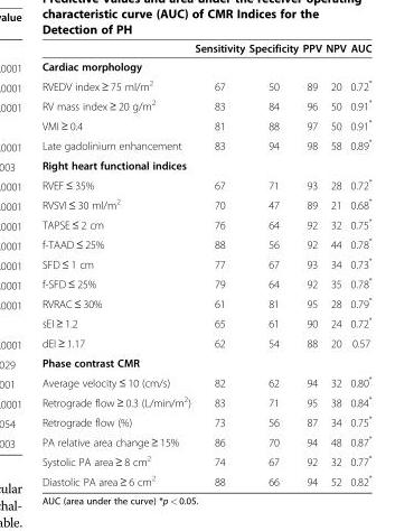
<table><thead><tr><td></td><td>Sensitivity</td><td>Specificity</td><td>PPV</td><td>NPV</td><td>AUC</td></tr></thead><tbody><tr><td colspan="6">Cardiac morphology</td></tr><tr><td>RVEDV index ≥ 75 ml/m<sup>2</sup></td><td>67</td><td>50</td><td>89</td><td>20</td><td>0.72*</td></tr><tr><td>RV mass index ≥ 20 g/m<sup>2</sup></td><td>83</td><td>84</td><td>96</td><td>50</td><td>0.91*</td></tr><tr><td>VMI ≥ 0.4</td><td>81</td><td>88</td><td>97</td><td>50</td><td>0.91*</td></tr><tr><td>Late gadolinium enhancement</td><td>83</td><td>94</td><td>98</td><td>58</td><td>0.89*</td></tr><tr><td colspan="6">Right heart functional indices</td></tr><tr><td>RVEF ≤ 35%</td><td>67</td><td>71</td><td>93</td><td>28</td><td>0.72*</td></tr><tr><td>RVSVI ≤ 30 ml/m<sup>2</sup></td><td>70</td><td>47</td><td>89</td><td>21</td><td>0.68*</td></tr><tr><td>TAPSE ≤ 2 cm</td><td>76</td><td>64</td><td>92</td><td>32</td><td>0.75*</td></tr><tr><td>f-TAAD ≤ 25%</td><td>88</td><td>56</td><td>92</td><td>44</td><td>0.78*</td></tr><tr><td>SFD ≤ 1 cm</td><td>77</td><td>67</td><td>93</td><td>34</td><td>0.73*</td></tr><tr><td>f-SFD ≤ 25%</td><td>79</td><td>64</td><td>92</td><td>35</td><td>0.78*</td></tr><tr><td>RVRAC ≤ 30%</td><td>61</td><td>81</td><td>95</td><td>28</td><td>0.79*</td></tr><tr><td>sEI ≥ 1.2</td><td>65</td><td>61</td><td>90</td><td>24</td><td>0.72*</td></tr><tr><td>dEI ≥ 1.17</td><td>62</td><td>54</td><td>88</td><td>20</td><td>0.57</td></tr><tr><td colspan="6">Phase contrast CMR</td></tr><tr><td>Average velocity ≤ 10 (cm/s)</td><td>82</td><td>62</td><td>94</td><td>32</td><td>0.80*</td></tr><tr><td>Retrograde flow ≥ 0.3 (L/min/m<sup>2</sup>)</td><td>83</td><td>71</td><td>95</td><td>38</td><td>0.84*</td></tr><tr><td>Retrograde flow (%)</td><td>73</td><td>56</td><td>87</td><td>34</td><td>0.75*</td></tr><tr><td>PA relative area change ≥ 15%</td><td>86</td><td>70</td><td>94</td><td>48</td><td>0.87*</td></tr><tr><td>Systolic PA area ≥ 8 cm<sup>2</sup></td><td>74</td><td>67</td><td>92</td><td>32</td><td>0.77*</td></tr><tr><td>Diastolic PA area ≥ 6 cm<sup>2</sup></td><td>88</td><td>66</td><td>94</td><td>52</td><td>0.82*</td></tr></tbody></table>